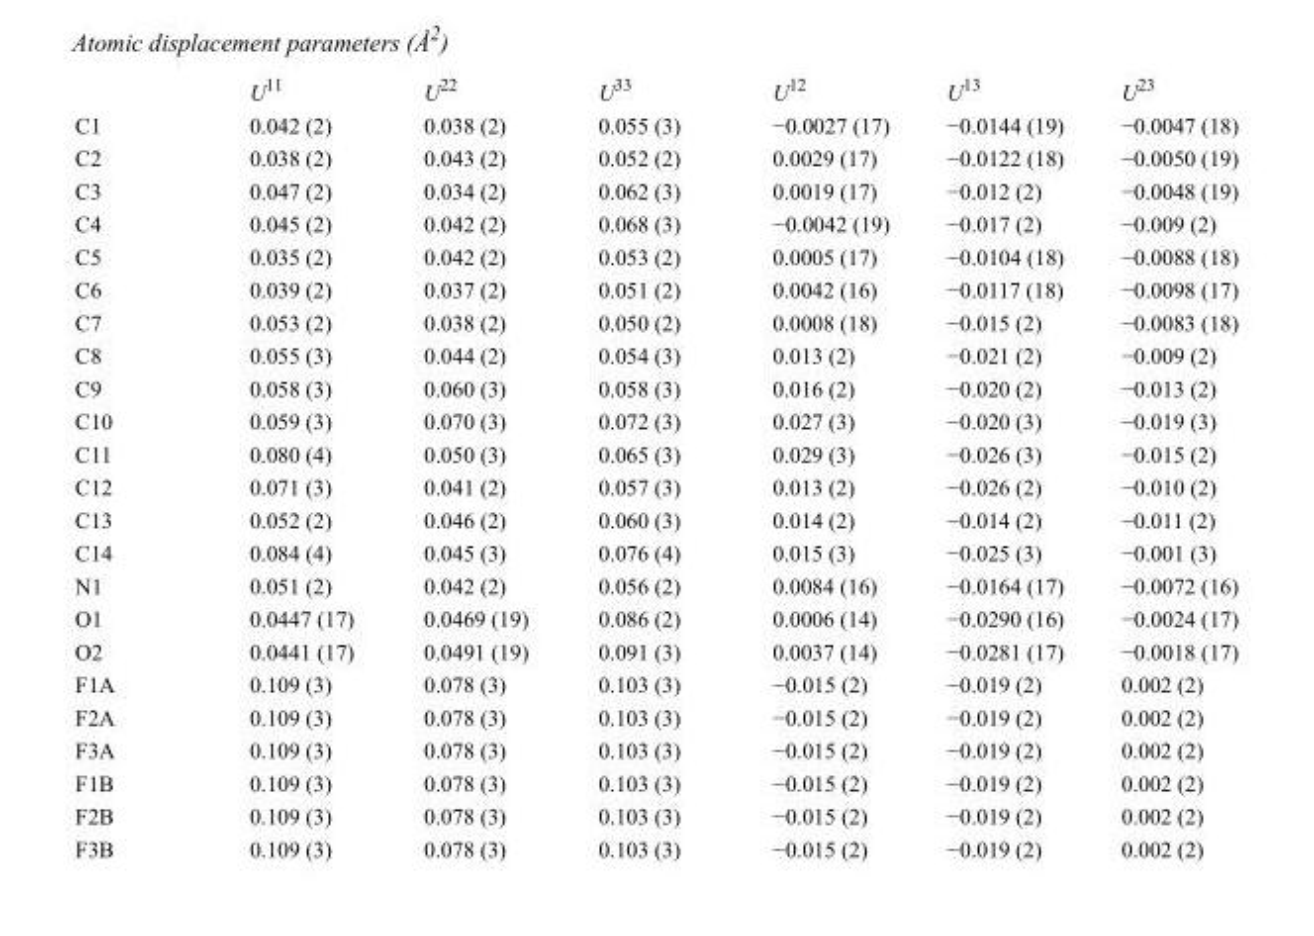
<table><thead><tr><td></td><td>U<sup>11</sup></td><td>U<sup>22</sup></td><td>U<sup>33</sup></td><td>U<sup>12</sup></td><td>U<sup>13</sup></td><td>U<sup>23</sup></td></tr></thead><tbody><tr><td>C1</td><td>0.042 (2)</td><td>0.038 (2)</td><td>0.055 (3)</td><td>−0.0027 (17)</td><td>−0.0144 (19)</td><td>−0.0047 (18)</td></tr><tr><td>C2</td><td>0.038 (2)</td><td>0.043 (2)</td><td>0.052 (2)</td><td>0.0029 (17)</td><td>−0.0122 (18)</td><td>−0.0050 (19)</td></tr><tr><td>C3</td><td>0.047 (2)</td><td>0.034 (2)</td><td>0.062 (3)</td><td>0.0019 (17)</td><td>−0.012 (2)</td><td>−0.0048 (19)</td></tr><tr><td>C4</td><td>0.045 (2)</td><td>0.042 (2)</td><td>0.068 (3)</td><td>−0.0042 (19)</td><td>−0.017 (2)</td><td>−0.009 (2)</td></tr><tr><td>C5</td><td>0.035 (2)</td><td>0.042 (2)</td><td>0.053 (2)</td><td>0.0005 (17)</td><td>−0.0104 (18)</td><td>−0.0088 (18)</td></tr><tr><td>C6</td><td>0.039 (2)</td><td>0.037 (2)</td><td>0.051 (2)</td><td>0.0042 (16)</td><td>−0.0117 (18)</td><td>−0.0098 (17)</td></tr><tr><td>C7</td><td>0.053 (2)</td><td>0.038 (2)</td><td>0.050 (2)</td><td>0.0008 (18)</td><td>−0.015 (2)</td><td>−0.0083 (18)</td></tr><tr><td>C8</td><td>0.055 (3)</td><td>0.044 (2)</td><td>0.054 (3)</td><td>0.013 (2)</td><td>−0.021 (2)</td><td>−0.009 (2)</td></tr><tr><td>C9</td><td>0.058 (3)</td><td>0.060 (3)</td><td>0.058 (3)</td><td>0.016 (2)</td><td>−0.020 (2)</td><td>−0.013 (2)</td></tr><tr><td>C10</td><td>0.059 (3)</td><td>0.070 (3)</td><td>0.072 (3)</td><td>0.027 (3)</td><td>−0.020 (3)</td><td>−0.019 (3)</td></tr><tr><td>C11</td><td>0.080 (4)</td><td>0.050 (3)</td><td>0.065 (3)</td><td>0.029 (3)</td><td>−0.026 (3)</td><td>−0.015 (2)</td></tr><tr><td>C12</td><td>0.071 (3)</td><td>0.041 (2)</td><td>0.057 (3)</td><td>0.013 (2)</td><td>−0.026 (2)</td><td>−0.010 (2)</td></tr><tr><td>C13</td><td>0.052 (2)</td><td>0.046 (2)</td><td>0.060 (3)</td><td>0.014 (2)</td><td>−0.014 (2)</td><td>−0.011 (2)</td></tr><tr><td>C14</td><td>0.084 (4)</td><td>0.045 (3)</td><td>0.076 (4)</td><td>0.015 (3)</td><td>−0.025 (3)</td><td>−0.001 (3)</td></tr><tr><td>N1</td><td>0.051 (2)</td><td>0.042 (2)</td><td>0.056 (2)</td><td>0.0084 (16)</td><td>−0.0164 (17)</td><td>−0.0072 (16)</td></tr><tr><td>O1</td><td>0.0447 (17)</td><td>0.0469 (19)</td><td>0.086 (2)</td><td>0.0006 (14)</td><td>−0.0290 (16)</td><td>−0.0024 (17)</td></tr><tr><td>O2</td><td>0.0441 (17)</td><td>0.0491 (19)</td><td>0.091 (3)</td><td>0.0037 (14)</td><td>−0.0281 (17)</td><td>−0.0018 (17)</td></tr><tr><td>F1A</td><td>0.109 (3)</td><td>0.078 (3)</td><td>0.103 (3)</td><td>−0.015 (2)</td><td>−0.019 (2)</td><td>0.002 (2)</td></tr><tr><td>F2A</td><td>0.109 (3)</td><td>0.078 (3)</td><td>0.103 (3)</td><td>−0.015 (2)</td><td>−0.019 (2)</td><td>0.002 (2)</td></tr><tr><td>F3A</td><td>0.109 (3)</td><td>0.078 (3)</td><td>0.103 (3)</td><td>−0.015 (2)</td><td>−0.019 (2)</td><td>0.002 (2)</td></tr><tr><td>F1B</td><td>0.109 (3)</td><td>0.078 (3)</td><td>0.103 (3)</td><td>−0.015 (2)</td><td>−0.019 (2)</td><td>0.002 (2)</td></tr><tr><td>F2B</td><td>0.109 (3)</td><td>0.078 (3)</td><td>0.103 (3)</td><td>−0.015 (2)</td><td>−0.019 (2)</td><td>0.002 (2)</td></tr><tr><td>F3B</td><td>0.109 (3)</td><td>0.078 (3)</td><td>0.103 (3)</td><td>−0.015 (2)</td><td>−0.019 (2)</td><td>0.002 (2)</td></tr></tbody></table>